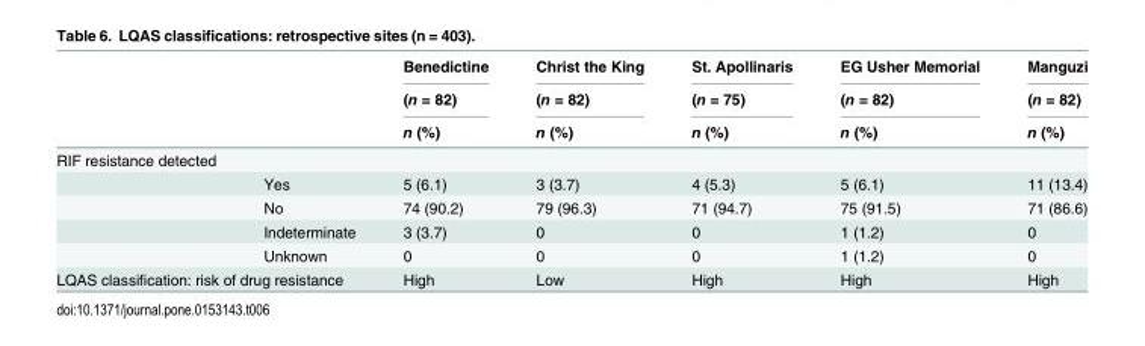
<table><thead><tr><td rowspan="3"></td><td rowspan="3"></td><td rowspan="3">Benedictine (n = 82) n (%)</td><td rowspan="3">Christ the King (n = 82) n (%)</td><td rowspan="3">St. Apollinaris (n = 75) n (%)</td><td rowspan="3">EG Usher Memorial (n = 82) n (%)</td><td rowspan="3">Manguzi (n = 82) n (%)</td></tr><tr></tr><tr></tr></thead><tbody><tr><td colspan="7">RIF resistance detected</td></tr><tr><td></td><td>Yes</td><td>5 (6.1)</td><td>3 (3.7)</td><td>4 (5.3)</td><td>5 (6.1)</td><td>11 (13.4)</td></tr><tr><td></td><td>No</td><td>74 (90.2)</td><td>79 (96.3)</td><td>71 (94.7)</td><td>75 (91.5)</td><td>71 (86.6)</td></tr><tr><td></td><td>Indeterminate</td><td>3 (3.7)</td><td>0</td><td>0</td><td>1 (1.2)</td><td>0</td></tr><tr><td></td><td>Unknown</td><td>0</td><td>0</td><td>0</td><td>1 (1.2)</td><td>0</td></tr><tr><td colspan="2">LQAS classification: risk of drug resistance</td><td>High</td><td>Low</td><td>High</td><td>High</td><td>High</td></tr></tbody></table>